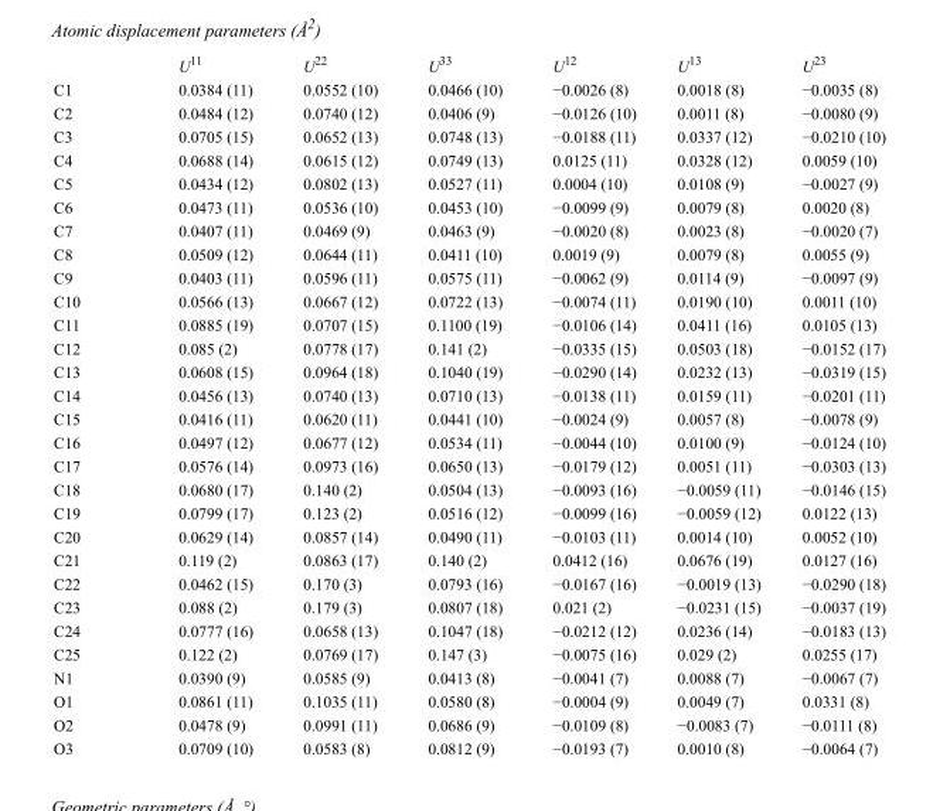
<table><thead><tr><td></td><td>U<sup>11</sup></td><td>U<sup>22</sup></td><td>U<sup>33</sup></td><td>U<sup>12</sup></td><td>U<sup>13</sup></td><td>U<sup>23</sup></td></tr></thead><tbody><tr><td>C1</td><td>0.0384 (11)</td><td>0.0552 (10)</td><td>0.0466 (10)</td><td>−0.0026 (8)</td><td>0.0018 (8)</td><td>−0.0035 (8)</td></tr><tr><td>C2</td><td>0.0484 (12)</td><td>0.0740 (12)</td><td>0.0406 (9)</td><td>−0.0126 (10)</td><td>0.0011 (8)</td><td>−0.0080 (9)</td></tr><tr><td>C3</td><td>0.0705 (15)</td><td>0.0652 (13)</td><td>0.0748 (13)</td><td>−0.0188 (11)</td><td>0.0337 (12)</td><td>−0.0210 (10)</td></tr><tr><td>C4</td><td>0.0688 (14)</td><td>0.0615 (12)</td><td>0.0749 (13)</td><td>0.0125 (11)</td><td>0.0328 (12)</td><td>0.0059 (10)</td></tr><tr><td>C5</td><td>0.0434 (12)</td><td>0.0802 (13)</td><td>0.0527 (11)</td><td>0.0004 (10)</td><td>0.0108 (9)</td><td>−0.0027 (9)</td></tr><tr><td>C6</td><td>0.0473 (11)</td><td>0.0536 (10)</td><td>0.0453 (10)</td><td>−0.0099 (9)</td><td>0.0079 (8)</td><td>0.0020 (8)</td></tr><tr><td>C7</td><td>0.0407 (11)</td><td>0.0469 (9)</td><td>0.0463 (9)</td><td>−0.0020 (8)</td><td>0.0023 (8)</td><td>−0.0020 (7)</td></tr><tr><td>C8</td><td>0.0509 (12)</td><td>0.0644 (11)</td><td>0.0411 (10)</td><td>0.0019 (9)</td><td>0.0079 (8)</td><td>0.0055 (9)</td></tr><tr><td>C9</td><td>0.0403 (11)</td><td>0.0596 (11)</td><td>0.0575 (11)</td><td>−0.0062 (9)</td><td>0.0114 (9)</td><td>−0.0097 (9)</td></tr><tr><td>C10</td><td>0.0566 (13)</td><td>0.0667 (12)</td><td>0.0722 (13)</td><td>−0.0074 (11)</td><td>0.0190 (10)</td><td>0.0011 (10)</td></tr><tr><td>C11</td><td>0.0885 (19)</td><td>0.0707 (15)</td><td>0.1100 (19)</td><td>−0.0106 (14)</td><td>0.0411 (16)</td><td>0.0105 (13)</td></tr><tr><td>C12</td><td>0.085 (2)</td><td>0.0778 (17)</td><td>0.141 (2)</td><td>−0.0335 (15)</td><td>0.0503 (18)</td><td>−0.0152 (17)</td></tr><tr><td>C13</td><td>0.0608 (15)</td><td>0.0964 (18)</td><td>0.1040 (19)</td><td>−0.0290 (14)</td><td>0.0232 (13)</td><td>−0.0319 (15)</td></tr><tr><td>C14</td><td>0.0456 (13)</td><td>0.0740 (13)</td><td>0.0710 (13)</td><td>−0.0138 (11)</td><td>0.0159 (11)</td><td>−0.0201 (11)</td></tr><tr><td>C15</td><td>0.0416 (11)</td><td>0.0620 (11)</td><td>0.0441 (10)</td><td>−0.0024 (9)</td><td>0.0057 (8)</td><td>−0.0078 (9)</td></tr><tr><td>C16</td><td>0.0497 (12)</td><td>0.0677 (12)</td><td>0.0534 (11)</td><td>−0.0044 (10)</td><td>0.0100 (9)</td><td>−0.0124 (10)</td></tr><tr><td>C17</td><td>0.0576 (14)</td><td>0.0973 (16)</td><td>0.0650 (13)</td><td>−0.0179 (12)</td><td>0.0051 (11)</td><td>−0.0303 (13)</td></tr><tr><td>C18</td><td>0.0680 (17)</td><td>0.140 (2)</td><td>0.0504 (13)</td><td>−0.0093 (16)</td><td>−0.0059 (11)</td><td>−0.0146 (15)</td></tr><tr><td>C19</td><td>0.0799 (17)</td><td>0.123 (2)</td><td>0.0516 (12)</td><td>−0.0099 (16)</td><td>−0.0059 (12)</td><td>0.0122 (13)</td></tr><tr><td>C20</td><td>0.0629 (14)</td><td>0.0857 (14)</td><td>0.0490 (11)</td><td>−0.0103 (11)</td><td>0.0014 (10)</td><td>0.0052 (10)</td></tr><tr><td>C21</td><td>0.119 (2)</td><td>0.0863 (17)</td><td>0.140 (2)</td><td>0.0412 (16)</td><td>0.0676 (19)</td><td>0.0127 (16)</td></tr><tr><td>C22</td><td>0.0462 (15)</td><td>0.170 (3)</td><td>0.0793 (16)</td><td>−0.0167 (16)</td><td>−0.0019 (13)</td><td>−0.0290 (18)</td></tr><tr><td>C23</td><td>0.088 (2)</td><td>0.179 (3)</td><td>0.0807 (18)</td><td>0.021 (2)</td><td>−0.0231 (15)</td><td>−0.0037 (19)</td></tr><tr><td>C24</td><td>0.0777 (16)</td><td>0.0658 (13)</td><td>0.1047 (18)</td><td>−0.0212 (12)</td><td>0.0236 (14)</td><td>−0.0183 (13)</td></tr><tr><td>C25</td><td>0.122 (2)</td><td>0.0769 (17)</td><td>0.147 (3)</td><td>−0.0075 (16)</td><td>0.029 (2)</td><td>0.0255 (17)</td></tr><tr><td>N1</td><td>0.0390 (9)</td><td>0.0585 (9)</td><td>0.0413 (8)</td><td>−0.0041 (7)</td><td>0.0088 (7)</td><td>−0.0067 (7)</td></tr><tr><td>O1</td><td>0.0861 (11)</td><td>0.1035 (11)</td><td>0.0580 (8)</td><td>−0.0004 (9)</td><td>0.0049 (7)</td><td>0.0331 (8)</td></tr><tr><td>O2</td><td>0.0478 (9)</td><td>0.0991 (11)</td><td>0.0686 (9)</td><td>−0.0109 (8)</td><td>−0.0083 (7)</td><td>−0.0111 (8)</td></tr><tr><td>O3</td><td>0.0709 (10)</td><td>0.0583 (8)</td><td>0.0812 (9)</td><td>−0.0193 (7)</td><td>0.0010 (8)</td><td>−0.0064 (7)</td></tr></tbody></table>